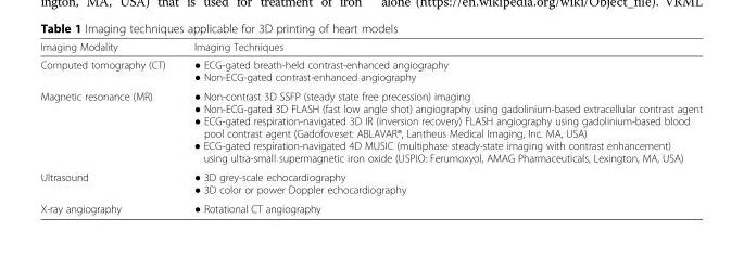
<table><thead><tr><td>Imaging Modality</td><td>Imaging Techniques</td></tr></thead><tbody><tr><td>Computed tomography (CT)</td><td>● ECG-gated breath-held contrast-enhanced angiography ● Non-ECG-gated contrast-enhanced angiography</td></tr><tr><td>Magnetic resonance (MR)</td><td>● Non-contrast 3D SSFP (steady state free precession) imaging ● Non-ECG-gated 3D FLASH (fast low angle shot) angiography using gadolinium-based extracellular contrast agent ● ECG-gated respiration-navigated 3D IR (inversion recovery) FLASH angiography using gadolinium-based blood pool contrast agent (Gadofoveset: ABLAVAR®, Lantheus Medical Imaging, Inc. MA, USA) ● ECG-gated respiration-navigated 4D MUSIC (multiphase steady-state imaging with contrast enhancement) using ultra-small supermagnetic iron oxide (USPIO: Ferumoxyol, AMAG Pharmaceuticals, Lexington, MA, USA)</td></tr><tr><td>Ultrasound</td><td>● 3D grey-scale echocardiography ● 3D color or power Doppler echocardiography</td></tr><tr><td>X-ray angiography</td><td>● Rotational CT angiography</td></tr></tbody></table>